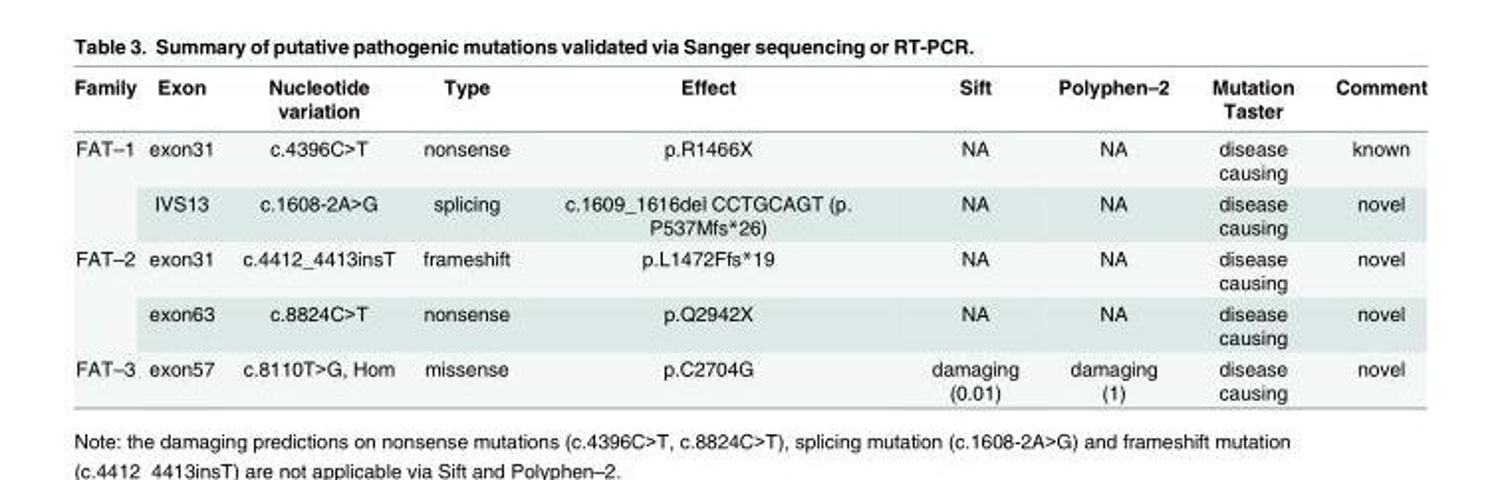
<table><thead><tr><td>Family</td><td>Exon</td><td>Nucleotide variation</td><td>Type</td><td>Effect</td><td>Sift</td><td>Polyphen–2</td><td>Mutation Taster</td><td>Comment</td></tr></thead><tbody><tr><td rowspan="2">FAT–1</td><td>exon31</td><td>c.4396C&gt;T</td><td>nonsense</td><td>p.R1466X</td><td>NA</td><td>NA</td><td>disease causing</td><td>known</td></tr><tr><td>IVS13</td><td>c.1608-2A&gt;G</td><td>splicing</td><td>c.1609_1616del CCTGCAGT (p. P537Mfs*26)</td><td>NA</td><td>NA</td><td>disease causing</td><td>novel</td></tr><tr><td rowspan="2">FAT–2</td><td>exon31</td><td>c.4412_4413insT</td><td>frameshift</td><td>p.L1472Ffs*19</td><td>NA</td><td>NA</td><td>disease causing</td><td>novel</td></tr><tr><td>exon63</td><td>c.8824C&gt;T</td><td>nonsense</td><td>p.Q2942X</td><td>NA</td><td>NA</td><td>disease causing</td><td>novel</td></tr><tr><td>FAT–3</td><td>exon57</td><td>c.8110T&gt;G, Hom</td><td>missense</td><td>p.C2704G</td><td>damaging (0.01)</td><td>damaging (1)</td><td>disease causing</td><td>novel</td></tr></tbody></table>